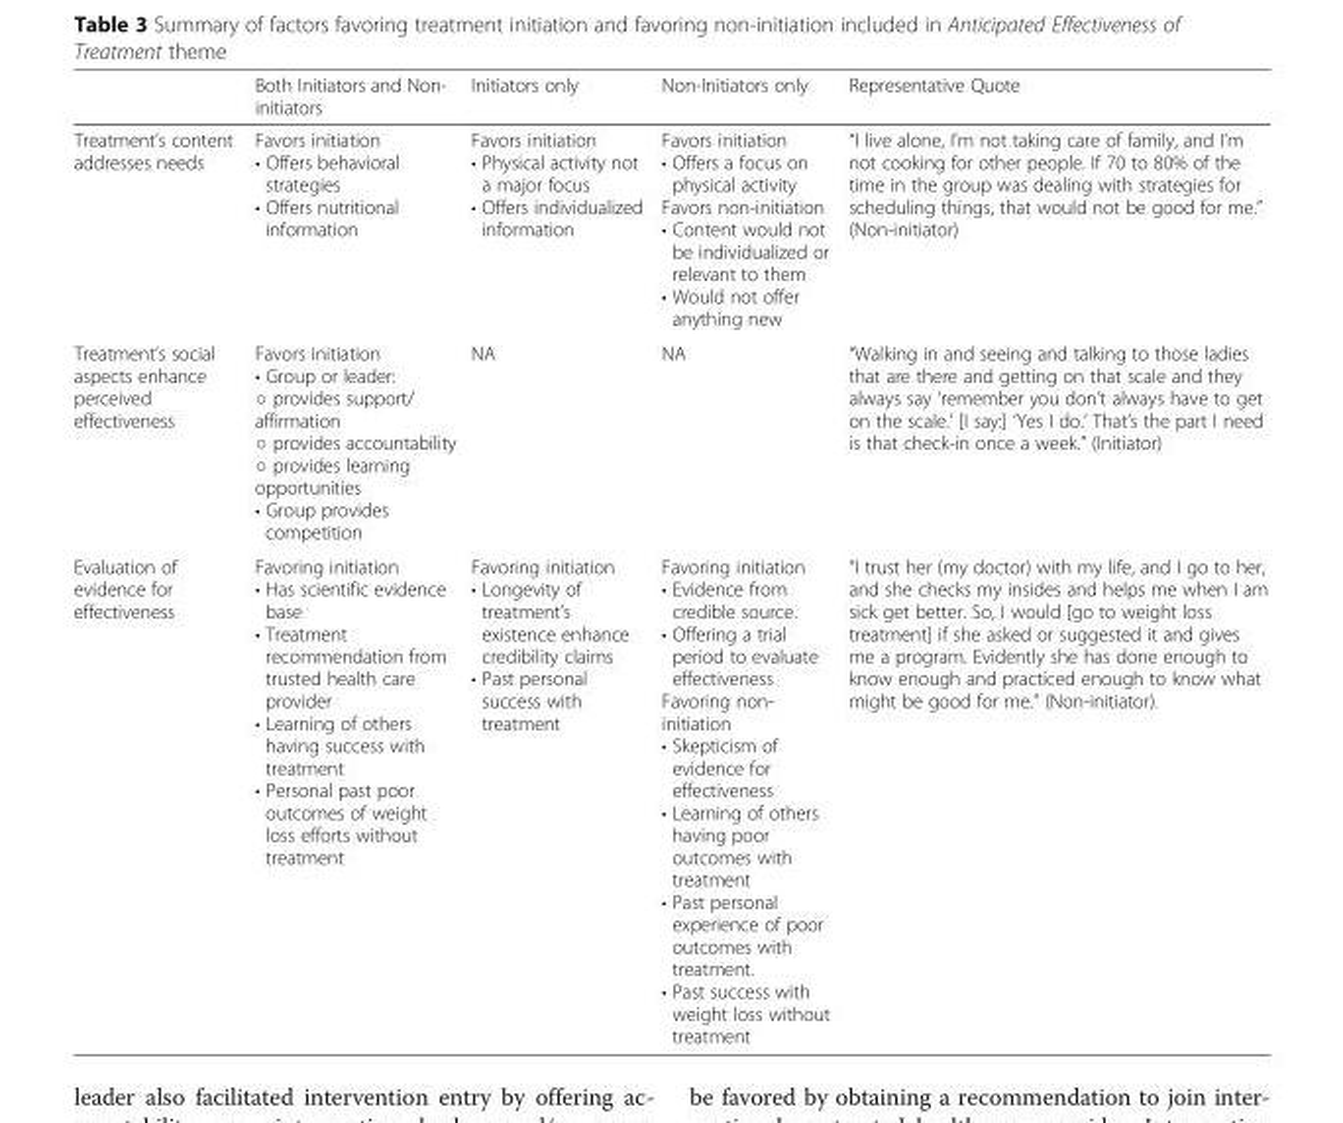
<table><thead><tr><td></td><td>Both Initiators and Non- initiators</td><td>Initiators only</td><td>Non-Initiators only</td><td>Representative Quote</td></tr></thead><tbody><tr><td>Treatment’s content addresses needs</td><td>Favors initiation • Offers behavioral strategies • Offers nutritional information</td><td>Favors initiation • Physical activity not a major focus • Offers individualized information</td><td>Favors initiation • Offers a focus on physical activity Favors non-initiation • Content would not be individualized or relevant to them • Would not offer anything new</td><td>“I live alone, I’m not taking care of family, and I’m not cooking for other people. If 70 to 80% of the time in the group was dealing with strategies for scheduling things, that would not be good for me.” (Non-initiator)</td></tr><tr><td>Treatment’s social aspects enhance perceived effectiveness</td><td>Favors initiation • Group or leader: ○ provides support/ affirmation ○ provides accountability ○ provides learning opportunities • Group provides competition</td><td>NA</td><td>NA</td><td>“Walking in and seeing and talking to those ladies that are there and getting on that scale and they always say ‘remember you don’t always have to get on the scale.’ [I say:] ‘Yes I do.’ That’s the part I need is that check-in once a week.” (Initiator)</td></tr><tr><td>Evaluation of evidence for effectiveness</td><td>Favoring initiation • Has scientific evidence base • Treatment recommendation from trusted health care provider • Learning of others having success with treatment • Personal past poor outcomes of weight loss efforts without treatment</td><td>Favoring initiation • Longevity of treatment’s existence enhance credibility claims • Past personal success with treatment</td><td>Favoring initiation • Evidence from credible source. • Offering a trial period to evaluate effectiveness Favoring non- initiation • Skepticism of evidence for effectiveness • Learning of others having poor outcomes with treatment • Past personal experience of poor outcomes with treatment. • Past success with weight loss without treatment</td><td>“I trust her (my doctor) with my life, and I go to her, and she checks my insides and helps me when I am sick get better. So, I would [go to weight loss treatment] if she asked or suggested it and gives me a program. Evidently she has done enough to know enough and practiced enough to know what might be good for me.” (Non-initiator).</td></tr></tbody></table>